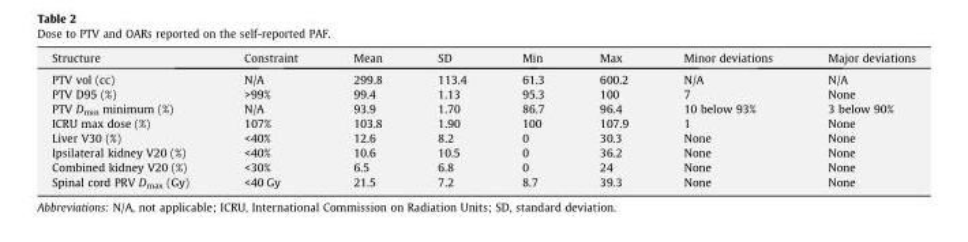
<table><thead><tr><td>Structure</td><td>Constraint</td><td>Mean</td><td>SD</td><td>Min</td><td>Max</td><td>Minor deviations</td><td>Major deviations</td></tr></thead><tbody><tr><td>PTV vol (cc)</td><td>N/A</td><td>299.8</td><td>113.4</td><td>61.3</td><td>600.2</td><td>N/A</td><td>N/A</td></tr><tr><td>PTV D95 (%)</td><td>&gt;99%</td><td>99.4</td><td>1.13</td><td>95.3</td><td>100</td><td>7</td><td>None</td></tr><tr><td>PTV D<sub>min</sub> minimum (%)</td><td>N/A</td><td>93.9</td><td>1.70</td><td>86.7</td><td>96.4</td><td>10 below 93%</td><td>3 below 90%</td></tr><tr><td>ICRU max dose (%)</td><td>107%</td><td>103.8</td><td>1.90</td><td>100</td><td>107.9</td><td>1</td><td>None</td></tr><tr><td>Liver V30 (%)</td><td>&lt;40%</td><td>12.6</td><td>8.2</td><td>0</td><td>30.3</td><td>None</td><td>None</td></tr><tr><td>Ipsilateral kidney V20 (%)</td><td>&lt;40%</td><td>10.6</td><td>10.5</td><td>0</td><td>36.2</td><td>None</td><td>None</td></tr><tr><td>Combined kidney V20 (%)</td><td>&lt;30%</td><td>6.5</td><td>6.8</td><td>0</td><td>24</td><td>None</td><td>None</td></tr><tr><td>Spinal cord PRV D<sub>max</sub> (Gy)</td><td>&lt;40 Gy</td><td>21.5</td><td>7.2</td><td>8.7</td><td>39.3</td><td>None</td><td>None</td></tr></tbody></table>